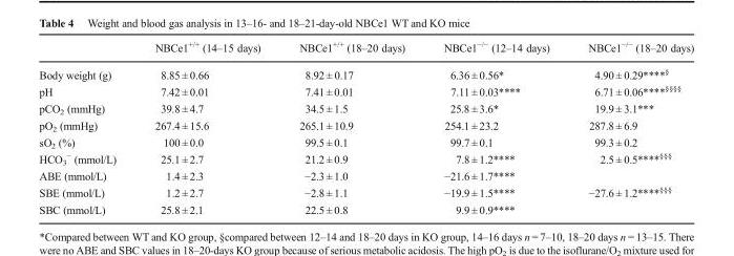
<table><thead><tr><td></td><td>NBCe1<sup>+/+</sup> (14–15 days)</td><td>NBCe1<sup>+/+</sup> (18–20 days)</td><td>NBCe1<sup>−/−</sup> (12–14 days)</td><td>NBCe1<sup>−/−</sup> (18–20 days)</td></tr></thead><tbody><tr><td>Body weight (g)</td><td>8.85 ± 0.66</td><td>8.92 ± 0.17</td><td>6.36 ± 0.56*</td><td>4.90 ± 0.29****<sup>§</sup></td></tr><tr><td>pH</td><td>7.42 ± 0.01</td><td>7.41 ± 0.01</td><td>7.11 ± 0.03****</td><td>6.71 ± 0.06****<sup>§§§§</sup></td></tr><tr><td>pCO<sub>2</sub> (mmHg)</td><td>39.8 ± 4.7</td><td>34.5 ± 1.5</td><td>25.8 ± 3.6*</td><td>19.9 ± 3.1***</td></tr><tr><td>pO<sub>2</sub> (mmHg)</td><td>267.4 ± 15.6</td><td>265.1 ± 10.9</td><td>254.1 ± 23.2</td><td>287.8 ± 6.9</td></tr><tr><td>sO<sub>2</sub> (%)</td><td>100 ± 0.0</td><td>99.5 ± 0.1</td><td>99.7 ± 0.1</td><td>99.3 ± 0.2</td></tr><tr><td>HCO<sub>3</sub> <sup>−</sup> (mmol/L)</td><td>25.1 ± 2.7</td><td>21.2 ± 0.9</td><td>7.8 ± 1.2****</td><td>2.5 ± 0.5****<sup>§§§</sup></td></tr><tr><td>ABE (mmol/L)</td><td>1.4 ± 2.3</td><td>−2.3 ± 1.0</td><td>−21.6 ± 1.7****</td><td></td></tr><tr><td>SBE (mmol/L)</td><td>1.2 ± 2.7</td><td>−2.8 ± 1.1</td><td>−19.9 ± 1.5****</td><td>−27.6 ± 1.2****<sup>§§§</sup></td></tr><tr><td>SBC (mmol/L)</td><td>25.8 ± 2.1</td><td>22.5 ± 0.8</td><td>9.9 ± 0.9****</td><td></td></tr></tbody></table>